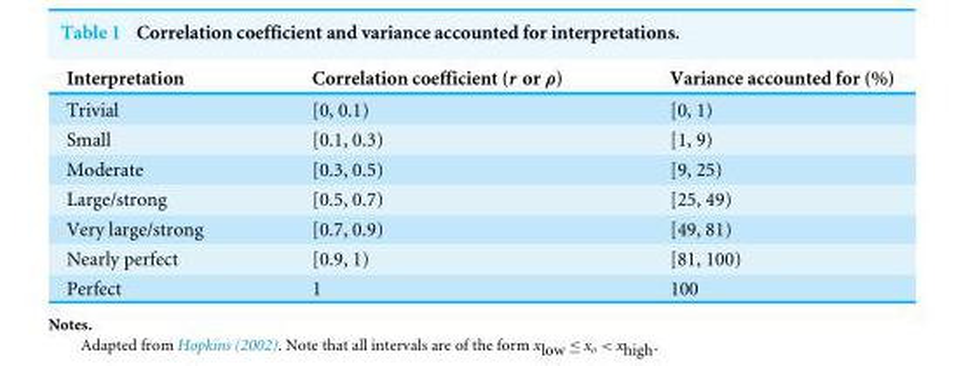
<table><thead><tr><td>Interpretation</td><td>Correlation coefficient (r or ρ)</td><td>Variance accounted for (%)</td></tr></thead><tbody><tr><td>Trivial</td><td>[0, 0.1)</td><td>[0, 1)</td></tr><tr><td>Small</td><td>[0.1, 0.3)</td><td>[1, 9)</td></tr><tr><td>Moderate</td><td>[0.3, 0.5)</td><td>[9, 25)</td></tr><tr><td>Large/strong</td><td>[0.5, 0.7)</td><td>[25, 49)</td></tr><tr><td>Very large/strong</td><td>[0.7, 0.9)</td><td>[49, 81)</td></tr><tr><td>Nearly perfect</td><td>[0.9, 1)</td><td>[81, 100)</td></tr><tr><td>Perfect</td><td>1</td><td>100</td></tr></tbody></table>